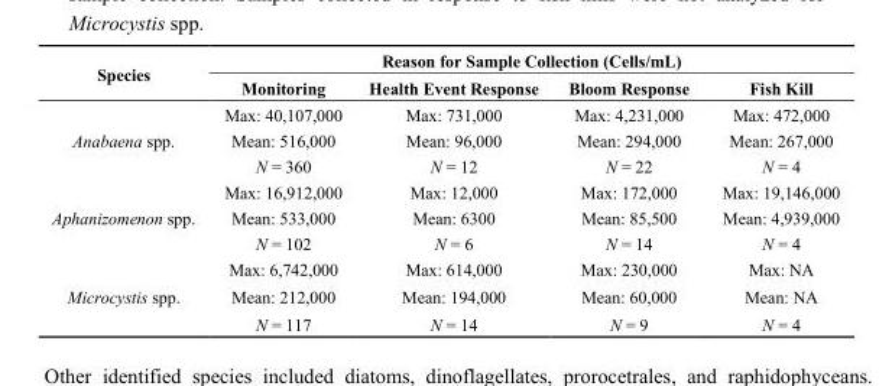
<table><thead><tr><td rowspan="2">Species</td><td colspan="4">Reason for Sample Collection (Cells/mL)</td></tr><tr><td>Monitoring</td><td>Health Event Response</td><td>Bloom Response</td><td>Fish Kill</td></tr></thead><tbody><tr><td rowspan="3">Anabaena spp.</td><td>Max: 40,107,000</td><td>Max: 731,000</td><td>Max: 4,231,000</td><td>Max: 472,000</td></tr><tr><td>Mean: 516,000</td><td>Mean: 96,000</td><td>Mean: 294,000</td><td>Mean: 267,000</td></tr><tr><td>N = 360</td><td>N = 12</td><td>N = 22</td><td>N = 4</td></tr><tr><td rowspan="3">Aphanizomenon spp.</td><td>Max: 16,912,000</td><td>Max: 12,000</td><td>Max: 172,000</td><td>Max: 19,146,000</td></tr><tr><td>Mean: 533,000</td><td>Mean: 6300</td><td>Mean: 85,500</td><td>Mean: 4,939,000</td></tr><tr><td>N = 102</td><td>N = 6</td><td>N = 14</td><td>N = 4</td></tr><tr><td rowspan="3">Microcystis spp.</td><td>Max: 6,742,000</td><td>Max: 614,000</td><td>Max: 230,000</td><td>Max: NA</td></tr><tr><td>Mean: 212,000</td><td>Mean: 194,000</td><td>Mean: 60,000</td><td>Mean: NA</td></tr><tr><td>N = 117</td><td>N = 14</td><td>N = 9</td><td>N = 4</td></tr></tbody></table>